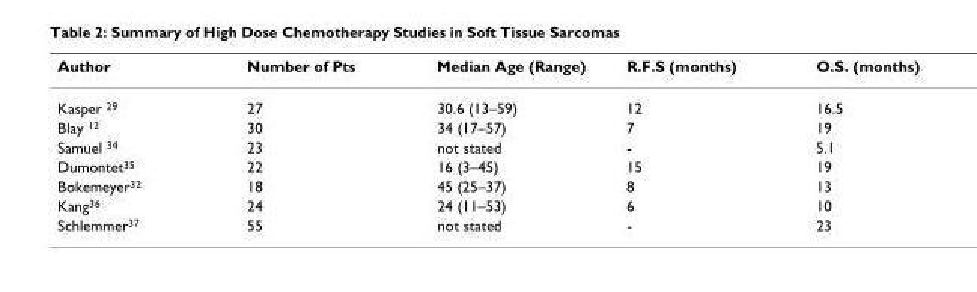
<table><thead><tr><td>Author</td><td>Number of Pts</td><td>Median Age (Range)</td><td>R.F.S (months)</td><td>O.S. (months)</td></tr></thead><tbody><tr><td>Kasper <sup>29</sup></td><td>27</td><td>30.6 (13–59)</td><td>12</td><td>16.5</td></tr><tr><td>Blay <sup>12</sup></td><td>30</td><td>34 (17–57)</td><td>7</td><td>19</td></tr><tr><td>Samuel <sup>34</sup></td><td>23</td><td>not stated</td><td>-</td><td>5.1</td></tr><tr><td>Dumontet<sup>35</sup></td><td>22</td><td>16 (3–45)</td><td>15</td><td>19</td></tr><tr><td>Bokemeyer<sup>32</sup></td><td>18</td><td>45 (25–37)</td><td>8</td><td>13</td></tr><tr><td>Kang<sup>36</sup></td><td>24</td><td>24 (11–53)</td><td>6</td><td>10</td></tr><tr><td>Schlemmer<sup>37</sup></td><td>55</td><td>not stated</td><td>-</td><td>23</td></tr></tbody></table>